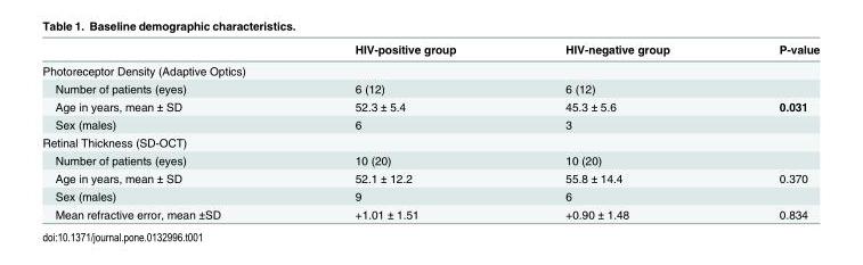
<table><thead><tr><td></td><td>HIV-positive group</td><td>HIV-negative group</td><td>P-value</td></tr></thead><tbody><tr><td colspan="4">Photoreceptor Density (Adaptive Optics)</td></tr><tr><td>Number of patients (eyes)</td><td>6 (12)</td><td>6 (12)</td><td></td></tr><tr><td>Age in years, mean ± SD</td><td>52.3 ± 5.4</td><td>45.3 ± 5.6</td><td>0.031</td></tr><tr><td>Sex (males)</td><td>6</td><td>3</td><td></td></tr><tr><td colspan="4">Retinal Thickness (SD-OCT)</td></tr><tr><td>Number of patients (eyes)</td><td>10 (20)</td><td>10 (20)</td><td></td></tr><tr><td>Age in years, mean ± SD</td><td>52.1 ± 12.2</td><td>55.8 ± 14.4</td><td>0.370</td></tr><tr><td>Sex (males)</td><td>9</td><td>6</td><td></td></tr><tr><td>Mean refractive error, mean ±SD</td><td>+1.01 ± 1.51</td><td>+0.90 ± 1.48</td><td>0.834</td></tr></tbody></table>